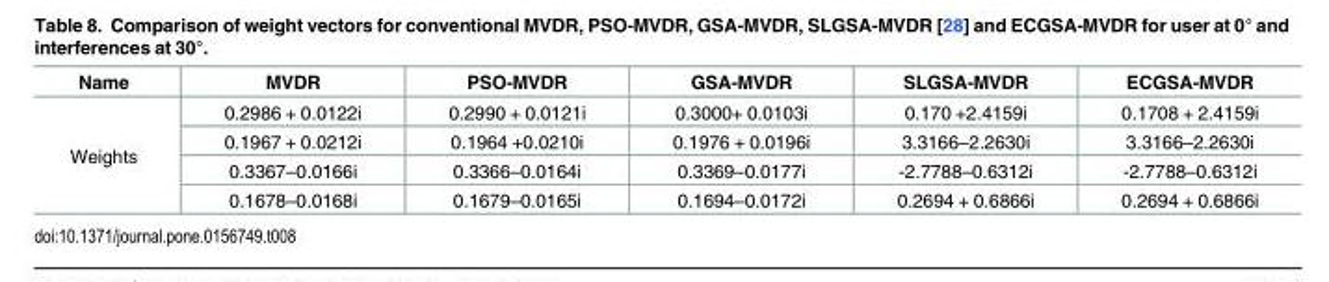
<table><thead><tr><td>Name</td><td>MVDR</td><td>PSO-MVDR</td><td>GSA-MVDR</td><td>SLGSA-MVDR</td><td>ECGSA-MVDR</td></tr></thead><tbody><tr><td rowspan="4">Weights</td><td>0.2986 + 0.0122i</td><td>0.2990 + 0.0121i</td><td>0.3000+ 0.0103i</td><td>0.170 +2.4159i</td><td>0.1708 + 2.4159i</td></tr><tr><td>0.1967 + 0.0212i</td><td>0.1964 +0.0210i</td><td>0.1976 + 0.0196i</td><td>3.3166–2.2630i</td><td>3.3166–2.2630i</td></tr><tr><td>0.3367–0.0166i</td><td>0.3366–0.0164i</td><td>0.3369–0.0177i</td><td>-2.7788–0.6312i</td><td>-2.7788–0.6312i</td></tr><tr><td>0.1678–0.0168i</td><td>0.1679–0.0165i</td><td>0.1694–0.0172i</td><td>0.2694 + 0.6866i</td><td>0.2694 + 0.6866i</td></tr></tbody></table>